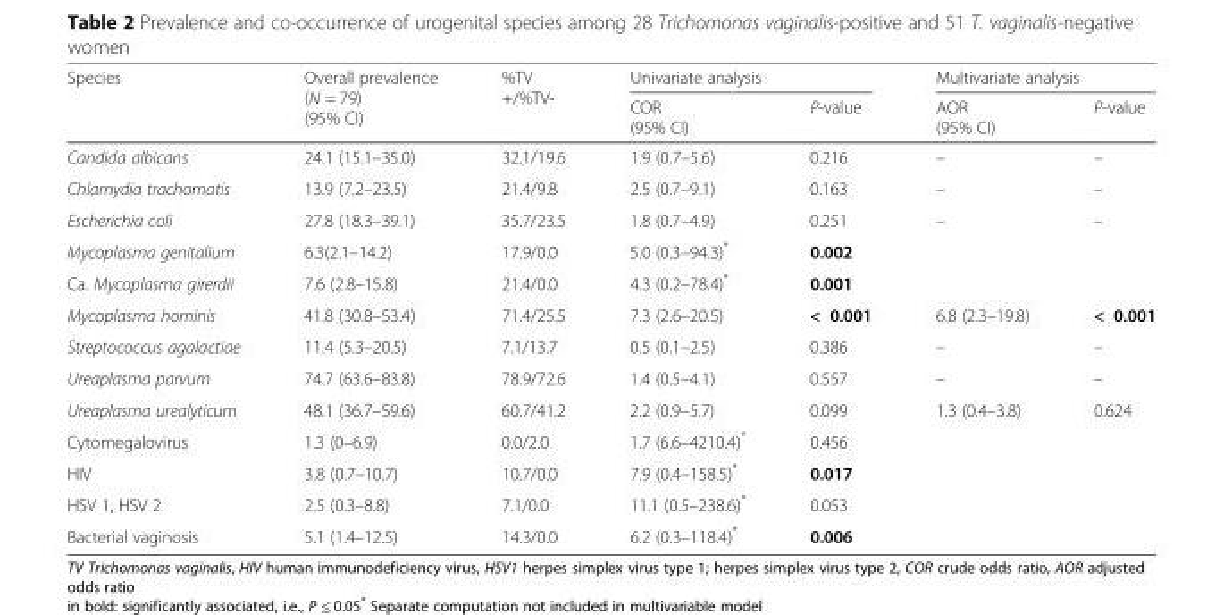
<table><thead><tr><td rowspan="2">Species</td><td rowspan="2">Overall prevalence (N = 79) (95% CI)</td><td rowspan="2">%TV +/%TV-</td><td colspan="2">Univariate analysis</td><td colspan="2">Multivariate analysis</td></tr><tr><td>COR (95% CI)</td><td>P-value</td><td>AOR (95% CI)</td><td>P-value</td></tr></thead><tbody><tr><td>Candida albicans</td><td>24.1 (15.1–35.0)</td><td>32.1/19.6</td><td>1.9 (0.7–5.6)</td><td>0.216</td><td>–</td><td>–</td></tr><tr><td>Chlamydia trachomatis</td><td>13.9 (7.2–23.5)</td><td>21.4/9.8</td><td>2.5 (0.7–9.1)</td><td>0.163</td><td>–</td><td>–</td></tr><tr><td>Escherichia coli</td><td>27.8 (18.3–39.1)</td><td>35.7/23.5</td><td>1.8 (0.7–4.9)</td><td>0.251</td><td>–</td><td>–</td></tr><tr><td>Mycoplasma genitalium</td><td>6.3(2.1–14.2)</td><td>17.9/0.0</td><td>5.0 (0.3–94.3)*</td><td>0.002</td><td></td><td></td></tr><tr><td>Ca. Mycoplasma girerdii</td><td>7.6 (2.8–15.8)</td><td>21.4/0.0</td><td>4.3 (0.2–78.4)*</td><td>0.001</td><td></td><td></td></tr><tr><td>Mycoplasma hominis</td><td>41.8 (30.8–53.4)</td><td>71.4/25.5</td><td>7.3 (2.6–20.5)</td><td>&lt; 0.001</td><td>6.8 (2.3–19.8)</td><td>&lt; 0.001</td></tr><tr><td>Streptococcus agalactiae</td><td>11.4 (5.3–20.5)</td><td>7.1/13.7</td><td>0.5 (0.1–2.5)</td><td>0.386</td><td>–</td><td>–</td></tr><tr><td>Ureaplasma parvum</td><td>74.7 (63.6–83.8)</td><td>78.9/72.6</td><td>1.4 (0.5–4.1)</td><td>0.557</td><td>–</td><td>–</td></tr><tr><td>Ureaplasma urealyticum</td><td>48.1 (36.7–59.6)</td><td>60.7/41.2</td><td>2.2 (0.9–5.7)</td><td>0.099</td><td>1.3 (0.4–3.8)</td><td>0.624</td></tr><tr><td>Cytomegalovirus</td><td>1.3 (0–6.9)</td><td>0.0/2.0</td><td>1.7 (6.6–4210.4)*</td><td>0.456</td><td></td><td></td></tr><tr><td>HIV</td><td>3.8 (0.7–10.7)</td><td>10.7/0.0</td><td>7.9 (0.4–158.5)*</td><td>0.017</td><td></td><td></td></tr><tr><td>HSV 1, HSV 2</td><td>2.5 (0.3–8.8)</td><td>7.1/0.0</td><td>11.1 (0.5–238.6)*</td><td>0.053</td><td></td><td></td></tr><tr><td>Bacterial vaginosis</td><td>5.1 (1.4–12.5)</td><td>14.3/0.0</td><td>6.2 (0.3–118.4)*</td><td>0.006</td><td></td><td></td></tr></tbody></table>